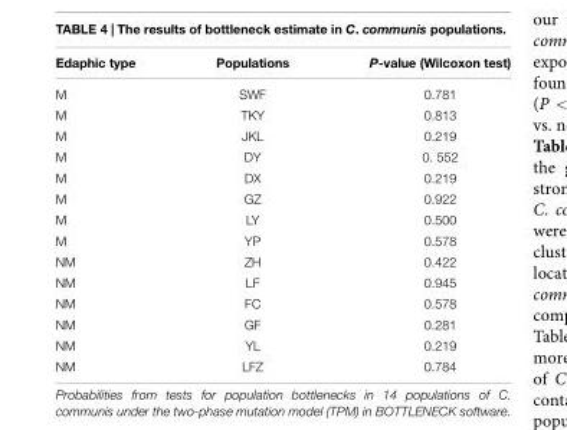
<table><thead><tr><td>Edaphic type</td><td>Populations</td><td>P-value (Wilcoxon test)</td></tr></thead><tbody><tr><td>M</td><td>SWF</td><td>0.781</td></tr><tr><td>M</td><td>TKY</td><td>0.813</td></tr><tr><td>M</td><td>JKL</td><td>0.219</td></tr><tr><td>M</td><td>DY</td><td>0. 552</td></tr><tr><td>M</td><td>DX</td><td>0.219</td></tr><tr><td>M</td><td>GZ</td><td>0.922</td></tr><tr><td>M</td><td>LY</td><td>0.500</td></tr><tr><td>M</td><td>YP</td><td>0.578</td></tr><tr><td>NM</td><td>ZH</td><td>0.422</td></tr><tr><td>NM</td><td>LF</td><td>0.945</td></tr><tr><td>NM</td><td>FC</td><td>0.578</td></tr><tr><td>NM</td><td>GF</td><td>0.281</td></tr><tr><td>NM</td><td>YL</td><td>0.219</td></tr><tr><td>NM</td><td>LFZ</td><td>0.784</td></tr></tbody></table>